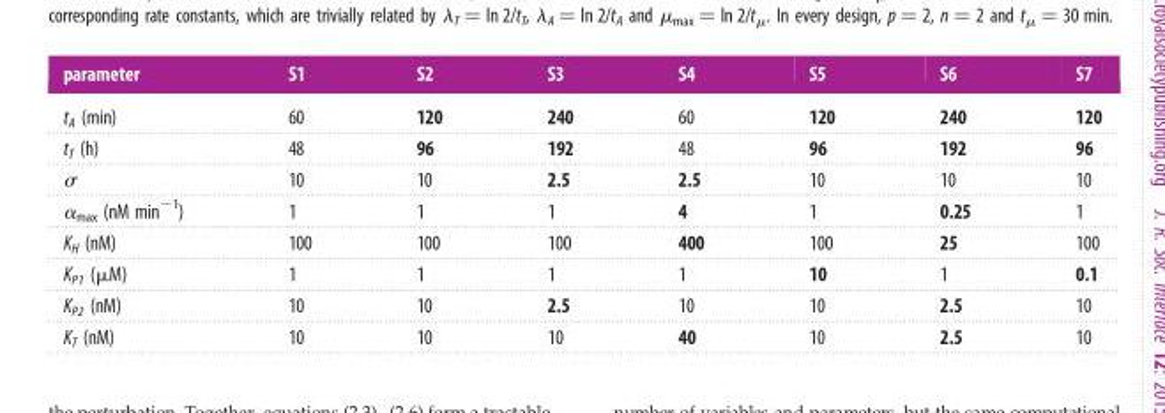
<table><thead><tr><td>parameter</td><td>S1</td><td>S2</td><td>S3</td><td>S4</td><td>S5</td><td>S6</td><td>S7</td></tr></thead><tbody><tr><td>t<sub>A</sub> (min)</td><td>60</td><td>120</td><td>240</td><td>60</td><td>120</td><td>240</td><td>120</td></tr><tr><td>t<sub>T</sub> (h)</td><td>48</td><td>96</td><td>192</td><td>48</td><td>96</td><td>192</td><td>96</td></tr><tr><td>σ</td><td>10</td><td>10</td><td>2.5</td><td>2.5</td><td>10</td><td>10</td><td>10</td></tr><tr><td>α<sub>max</sub> (nM min<sup>−1</sup>)</td><td>1</td><td>1</td><td>1</td><td>4</td><td>1</td><td>0.25</td><td>1</td></tr><tr><td>K<sub>H</sub> (nM)</td><td>100</td><td>100</td><td>100</td><td>400</td><td>100</td><td>25</td><td>100</td></tr><tr><td>K<sub>P1</sub> (μM)</td><td>1</td><td>1</td><td>1</td><td>1</td><td>10</td><td>1</td><td>0.1</td></tr><tr><td>K<sub>P2</sub> (nM)</td><td>10</td><td>10</td><td>2.5</td><td>10</td><td>10</td><td>2.5</td><td>10</td></tr><tr><td>K<sub>T</sub> (nM)</td><td>10</td><td>10</td><td>10</td><td>40</td><td>10</td><td>2.5</td><td>10</td></tr></tbody></table>